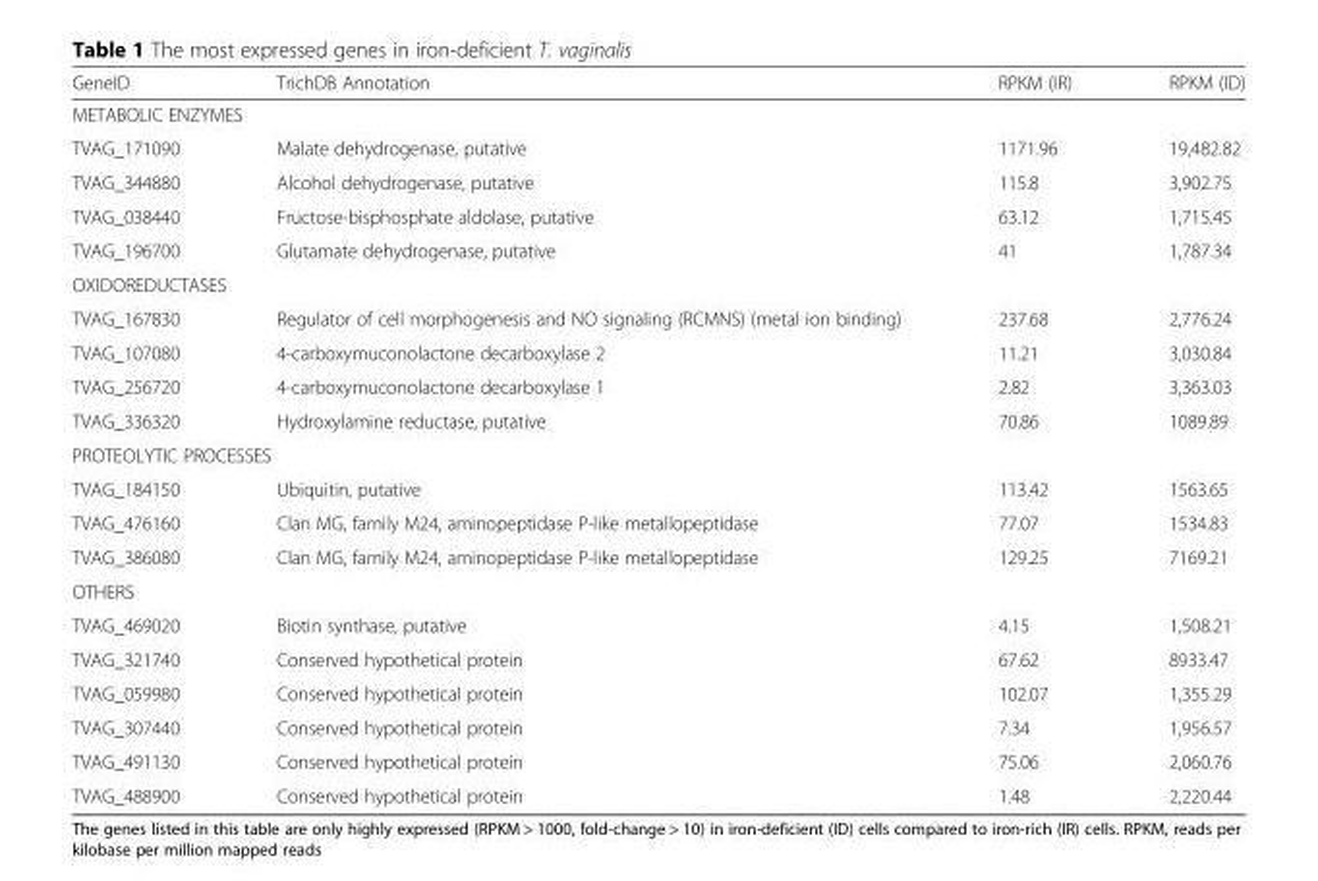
<table><thead><tr><td>GeneID</td><td>TrichDB Annotation</td><td>RPKM (IR)</td><td>RPKM (ID)</td></tr></thead><tbody><tr><td colspan="4">METABOLIC ENZYMES</td></tr><tr><td>TVAG_171090</td><td>Malate dehydrogenase, putative</td><td>1171.96</td><td>19,482.82</td></tr><tr><td>TVAG_344880</td><td>Alcohol dehydrogenase, putative</td><td>115.8</td><td>3,902.75</td></tr><tr><td>TVAG_038440</td><td>Fructose-bisphosphate aldolase, putative</td><td>63.12</td><td>1,715.45</td></tr><tr><td>TVAG_196700</td><td>Glutamate dehydrogenase, putative</td><td>41</td><td>1,787.34</td></tr><tr><td colspan="4">OXIDOREDUCTASES</td></tr><tr><td>TVAG_167830</td><td>Regulator of cell morphogenesis and NO signaling (RCMNS) (metal ion binding)</td><td>237.68</td><td>2,776.24</td></tr><tr><td>TVAG_107080</td><td>4-carboxymuconolactone decarboxylase 2</td><td>11.21</td><td>3,030.84</td></tr><tr><td>TVAG_256720</td><td>4-carboxymuconolactone decarboxylase 1</td><td>2.82</td><td>3,363.03</td></tr><tr><td>TVAG_336320</td><td>Hydroxylamine reductase, putative</td><td>70.86</td><td>1089.89</td></tr><tr><td colspan="4">PROTEOLYTIC PROCESSES</td></tr><tr><td>TVAG_184150</td><td>Ubiquitin, putative</td><td>113.42</td><td>1563.65</td></tr><tr><td>TVAG_476160</td><td>Clan MG, family M24, aminopeptidase P-like metallopeptidase</td><td>77.07</td><td>1534.83</td></tr><tr><td>TVAG_386080</td><td>Clan MG, family M24, aminopeptidase P-like metallopeptidase</td><td>129.25</td><td>7169.21</td></tr><tr><td colspan="4">OTHERS</td></tr><tr><td>TVAG_469020</td><td>Biotin synthase, putative</td><td>4.15</td><td>1,508.21</td></tr><tr><td>TVAG_321740</td><td>Conserved hypothetical protein</td><td>67.62</td><td>8933.47</td></tr><tr><td>TVAG_059980</td><td>Conserved hypothetical protein</td><td>102.07</td><td>1,355.29</td></tr><tr><td>TVAG_307440</td><td>Conserved hypothetical protein</td><td>7.34</td><td>1,956.57</td></tr><tr><td>TVAG_491130</td><td>Conserved hypothetical protein</td><td>75.06</td><td>2,060.76</td></tr><tr><td>TVAG_488900</td><td>Conserved hypothetical protein</td><td>1.48</td><td>2,220.44</td></tr></tbody></table>